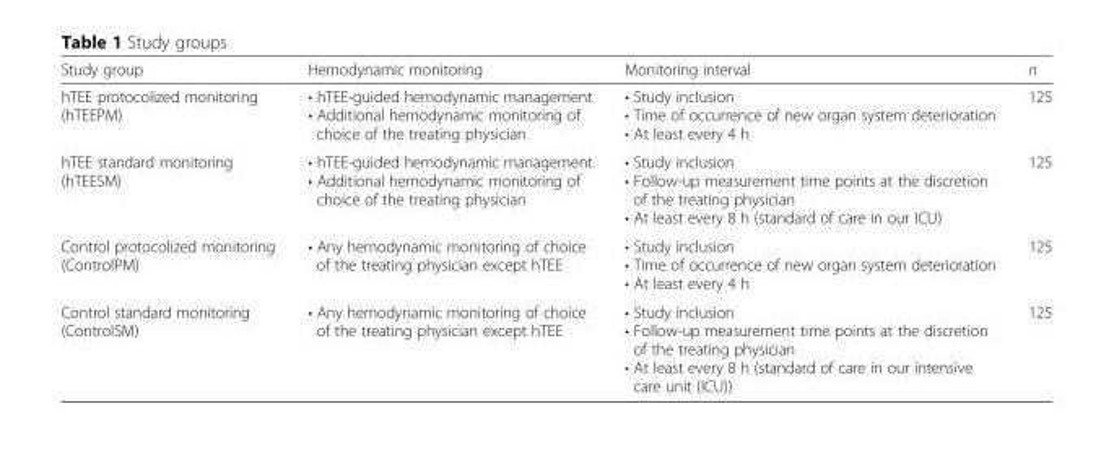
<table><thead><tr><td>Study group</td><td>Hemodynamic monitoring</td><td>Monitoring interval</td><td>n</td></tr></thead><tbody><tr><td>hTEE protocolized monitoring (hTEEPM)</td><td>• hTEE-guided hemodynamic management • Additional hemodynamic monitoring of choice of the treating physician</td><td>• Study inclusion • Time of occurrence of new organ system deterioration • At least every 4 h</td><td>125</td></tr><tr><td>hTEE standard monitoring (hTEESM)</td><td>• hTEE-guided hemodynamic management • Additional hemodynamic monitoring of choice of the treating physician</td><td>• Study inclusion • Follow-up measurement time points at the discretion of the treating physician • At least every 8 h (standard of care in our ICU)</td><td>125</td></tr><tr><td>Control protocolized monitoring (ControlPM)</td><td>• Any hemodynamic monitoring of choice of the treating physician except hTEE</td><td>• Study inclusion • Time of occurrence of new organ system deterioration • At least every 4 h</td><td>125</td></tr><tr><td>Control standard monitoring (ControlSM)</td><td>• Any hemodynamic monitoring of choice of the treating physician except hTEE</td><td>• Study inclusion • Follow-up measurement time points at the discretion of the treating physician • At least every 8 h (standard of care in our intensive care unit (ICU))</td><td>125</td></tr></tbody></table>